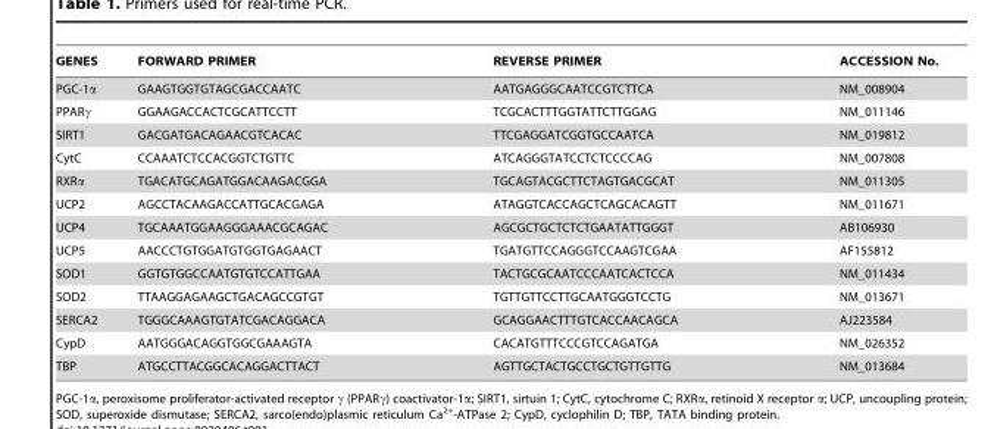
<table><thead><tr><td>GENES</td><td>FORWARD PRIMER</td><td>REVERSE PRIMER</td><td>ACCESSION No.</td></tr></thead><tbody><tr><td>PGC-1α</td><td>GAAGTGGTGTAGCGACCAATC</td><td>AATGAGGGCAATCCGTCTTCA</td><td>NM_008904</td></tr><tr><td>PPARγ</td><td>GGAAGACCACTCGCATTCCTT</td><td>TCGCACTTTGGTATTCTTGGAG</td><td>NM_011146</td></tr><tr><td>SIRT1</td><td>GACGATGACAGAACGTCACAC</td><td>TTCGAGGATCGGTGCCAATCA</td><td>NM_019812</td></tr><tr><td>CytC</td><td>CCAAATCTCCACGGTCTGTTC</td><td>ATCAGGGTATCCTCTCCCCAG</td><td>NM_007808</td></tr><tr><td>RXRα</td><td>TGACATGCAGATGGACAAGACGGA</td><td>TGCAGTACGCTTCTAGTGACGCAT</td><td>NM_011305</td></tr><tr><td>UCP2</td><td>AGCCTACAAGACCATTGCACGAGA</td><td>ATAGGTCACCAGCTCAGCACAGTT</td><td>NM_011671</td></tr><tr><td>UCP4</td><td>TGCAAATGGAAGGGAAACGCAGAC</td><td>AGCGCTGCTCTCTGAATATTGGGT</td><td>AB106930</td></tr><tr><td>UCP5</td><td>AACCCTGTGGATGTGGTGAGAACT</td><td>TGATGTTCCAGGGTCCAAGTCGAA</td><td>AF155812</td></tr><tr><td>SOD1</td><td>GGTGTGGCCAATGTGTCCATTGAA</td><td>TACTGCGCAATCCCAATCACTCCA</td><td>NM_011434</td></tr><tr><td>SOD2</td><td>TTAAGGAGAAGCTGACAGCCGTGT</td><td>TGTTGTTCCTTGCAATGGGTCCTG</td><td>NM_013671</td></tr><tr><td>SERCA2</td><td>TGGGCAAAGTGTATCGACAGGACA</td><td>GCAGGAACTTTGTCACCAACAGCA</td><td>AJ223584</td></tr><tr><td>CypD</td><td>AATGGGACAGGTGGCGAAAGTA</td><td>CACATGTTTCCCGTCCAGATGA</td><td>NM_026352</td></tr><tr><td>TBP</td><td>ATGCCTTACGGCACAGGACTTACT</td><td>AGTTGCTACTGCCTGCTGTTGTTG</td><td>NM_013684</td></tr></tbody></table>